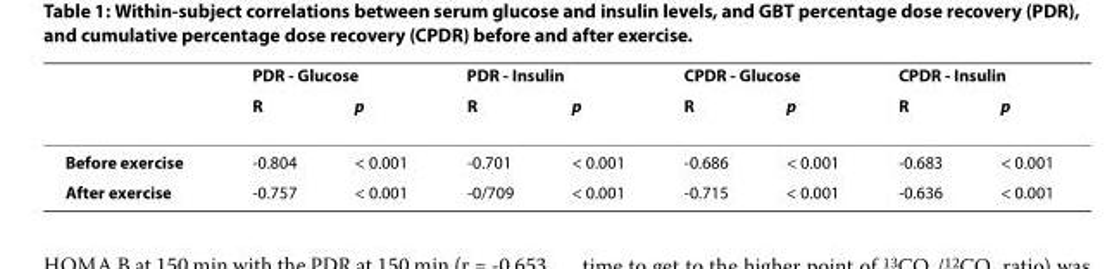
<table><thead><tr><td rowspan="2"></td><td colspan="2">PDR - Glucose</td><td colspan="2">PDR - Insulin</td><td colspan="2">CPDR - Glucose</td><td colspan="2">CPDR - Insulin</td></tr><tr><td>R</td><td>p</td><td>R</td><td>p</td><td>R</td><td>p</td><td>R</td><td>p</td></tr></thead><tbody><tr><td>Before exercise</td><td>-0.804</td><td>&lt; 0.001</td><td>-0.701</td><td>&lt; 0.001</td><td>-0.686</td><td>&lt; 0.001</td><td>-0.683</td><td>&lt; 0.001</td></tr><tr><td>After exercise</td><td>-0.757</td><td>&lt; 0.001</td><td>-0/709</td><td>&lt; 0.001</td><td>-0.715</td><td>&lt; 0.001</td><td>-0.636</td><td>&lt; 0.001</td></tr></tbody></table>